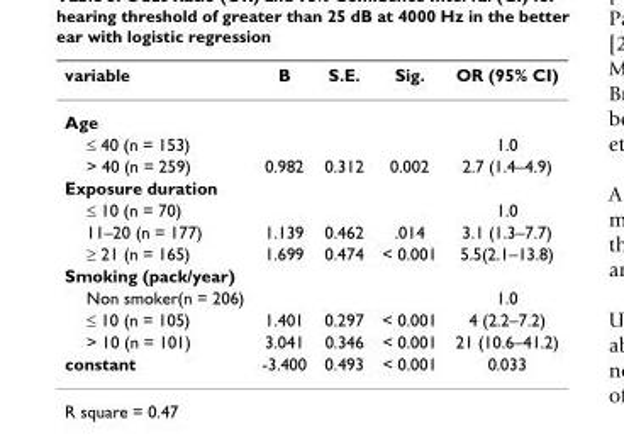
<table><thead><tr><td>variable</td><td>B</td><td>S.E.</td><td>Sig.</td><td>OR (95% CI)</td></tr></thead><tbody><tr><td colspan="5">Age</td></tr><tr><td>≤ 40 (n = 153)</td><td></td><td></td><td></td><td>1.0</td></tr><tr><td>&gt; 40 (n = 259)</td><td>0.982</td><td>0.312</td><td>0.002</td><td>2.7 (1.4–4.9)</td></tr><tr><td colspan="5">Exposure duration</td></tr><tr><td>≤ 10 (n = 70)</td><td></td><td></td><td></td><td>1.0</td></tr><tr><td>11–20 (n = 177)</td><td>1.139</td><td>0.462</td><td>.014</td><td>3.1 (1.3–7.7)</td></tr><tr><td>≥ 21 (n = 165)</td><td>1.699</td><td>0.474</td><td>&lt; 0.001</td><td>5.5(2.1–13.8)</td></tr><tr><td colspan="5">Smoking (pack/year)</td></tr><tr><td>Non smoker(n = 206)</td><td></td><td></td><td></td><td>1.0</td></tr><tr><td>≤ 10 (n = 105)</td><td>1.401</td><td>0.297</td><td>&lt; 0.001</td><td>4 (2.2–7.2)</td></tr><tr><td>&gt; 10 (n = 101)</td><td>3.041</td><td>0.346</td><td>&lt; 0.001</td><td>21 (10.6–41.2)</td></tr><tr><td>constant</td><td>-3.400</td><td>0.493</td><td>&lt; 0.001</td><td>0.033</td></tr></tbody></table>